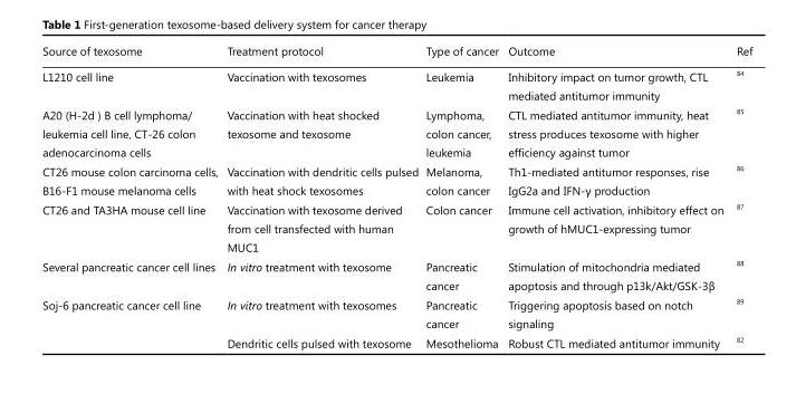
<table><thead><tr><td>Source of texosome</td><td>Treatment protocol</td><td>Type of cancer</td><td>Outcome</td><td>Ref</td></tr></thead><tbody><tr><td>L1210 cell line</td><td>Vaccination with texosomes</td><td>Leukemia</td><td>Inhibitory impact on tumor growth, CTL mediated antitumor immunity</td><td><sup>84</sup></td></tr><tr><td>A20 (H-2d ) B cell lymphoma/ leukemia cell line, CT-26 colon adenocarcinoma cells</td><td>Vaccination with heat shocked texosome and texosome</td><td>Lymphoma, colon cancer, leukemia</td><td>CTL mediated antitumor immunity, heat stress produces texosome with higher efficiency against tumor</td><td><sup>85</sup></td></tr><tr><td>CT26 mouse colon carcinoma cells, B16-F1 mouse melanoma cells</td><td>Vaccination with dendritic cells pulsed with heat shock texosomes</td><td>Melanoma, colon cancer</td><td>Th1-mediated antitumor responses, rise IgG2a and IFN-γ production</td><td><sup>86</sup></td></tr><tr><td>CT26 and TA3HA mouse cell line</td><td>Vaccination with texosome derived from cell transfected with human MUC1</td><td>Colon cancer</td><td>Immune cell activation, inhibitory effect on growth of hMUC1-expressing tumor</td><td><sup>87</sup></td></tr><tr><td>Several pancreatic cancer cell lines</td><td>In vitro treatment with texosome</td><td>Pancreatic cancer</td><td>Stimulation of mitochondria mediated apoptosis and through p13k/Akt/GSK-3β</td><td><sup>88</sup></td></tr><tr><td rowspan="2">Soj-6 pancreatic cancer cell line</td><td>In vitro treatment with texosomes</td><td>Pancreatic cancer</td><td>Triggering apoptosis based on notch signaling</td><td><sup>89</sup></td></tr><tr><td>Dendritic cells pulsed with texosome</td><td>Mesothelioma</td><td>Robust CTL mediated antitumor immunity</td><td><sup>82</sup></td></tr></tbody></table>